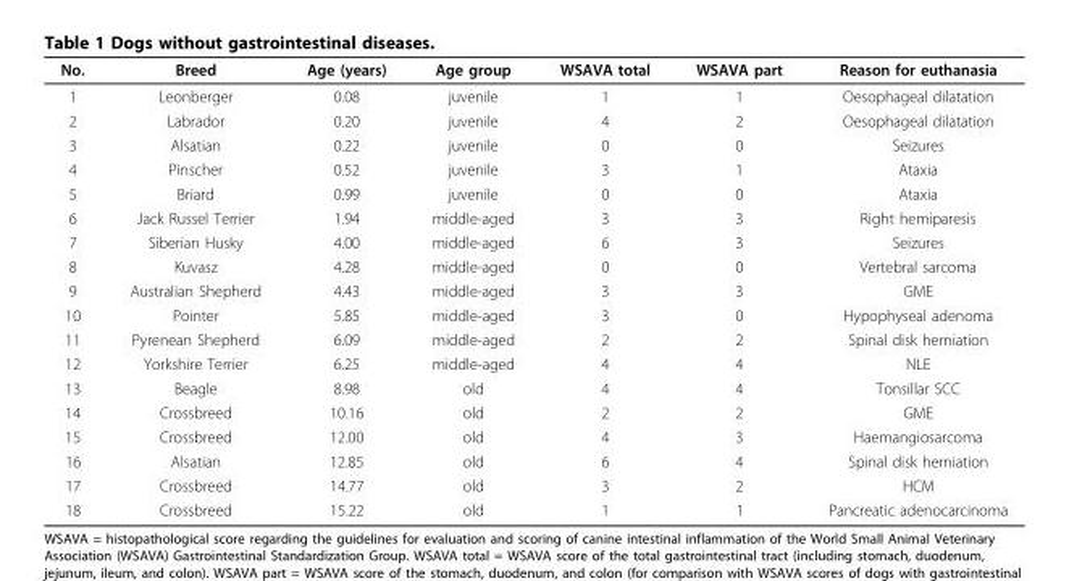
<table><thead><tr><td>No.</td><td>Breed</td><td>Age (years)</td><td>Age group</td><td>WSAVA total</td><td>WSAVA part</td><td>Reason for euthanasia</td></tr></thead><tbody><tr><td>1</td><td>Leonberger</td><td>0.08</td><td>juvenile</td><td>1</td><td>1</td><td>Oesophageal dilatation</td></tr><tr><td>2</td><td>Labrador</td><td>0.20</td><td>juvenile</td><td>4</td><td>2</td><td>Oesophageal dilatation</td></tr><tr><td>3</td><td>Alsatian</td><td>0.22</td><td>juvenile</td><td>0</td><td>0</td><td>Seizures</td></tr><tr><td>4</td><td>Pinscher</td><td>0.52</td><td>juvenile</td><td>3</td><td>1</td><td>Ataxia</td></tr><tr><td>5</td><td>Briard</td><td>0.99</td><td>juvenile</td><td>0</td><td>0</td><td>Ataxia</td></tr><tr><td>6</td><td>Jack Russel Terrier</td><td>1.94</td><td>middle-aged</td><td>3</td><td>3</td><td>Right hemiparesis</td></tr><tr><td>7</td><td>Siberian Husky</td><td>4.00</td><td>middle-aged</td><td>6</td><td>3</td><td>Seizures</td></tr><tr><td>8</td><td>Kuvasz</td><td>4.28</td><td>middle-aged</td><td>0</td><td>0</td><td>Vertebral sarcoma</td></tr><tr><td>9</td><td>Australian Shepherd</td><td>4.43</td><td>middle-aged</td><td>3</td><td>3</td><td>GME</td></tr><tr><td>10</td><td>Pointer</td><td>5.85</td><td>middle-aged</td><td>3</td><td>0</td><td>Hypophyseal adenoma</td></tr><tr><td>11</td><td>Pyrenean Shepherd</td><td>6.09</td><td>middle-aged</td><td>2</td><td>2</td><td>Spinal disk herniation</td></tr><tr><td>12</td><td>Yorkshire Terrier</td><td>6.25</td><td>middle-aged</td><td>4</td><td>4</td><td>NLE</td></tr><tr><td>13</td><td>Beagle</td><td>8.98</td><td>old</td><td>4</td><td>4</td><td>Tonsillar SCC</td></tr><tr><td>14</td><td>Crossbreed</td><td>10.16</td><td>old</td><td>2</td><td>2</td><td>GME</td></tr><tr><td>15</td><td>Crossbreed</td><td>12.00</td><td>old</td><td>4</td><td>3</td><td>Haemangiosarcoma</td></tr><tr><td>16</td><td>Alsatian</td><td>12.85</td><td>old</td><td>6</td><td>4</td><td>Spinal disk herniation</td></tr><tr><td>17</td><td>Crossbreed</td><td>14.77</td><td>old</td><td>3</td><td>2</td><td>HCM</td></tr><tr><td>18</td><td>Crossbreed</td><td>15.22</td><td>old</td><td>1</td><td>1</td><td>Pancreatic adenocarcinoma</td></tr></tbody></table>